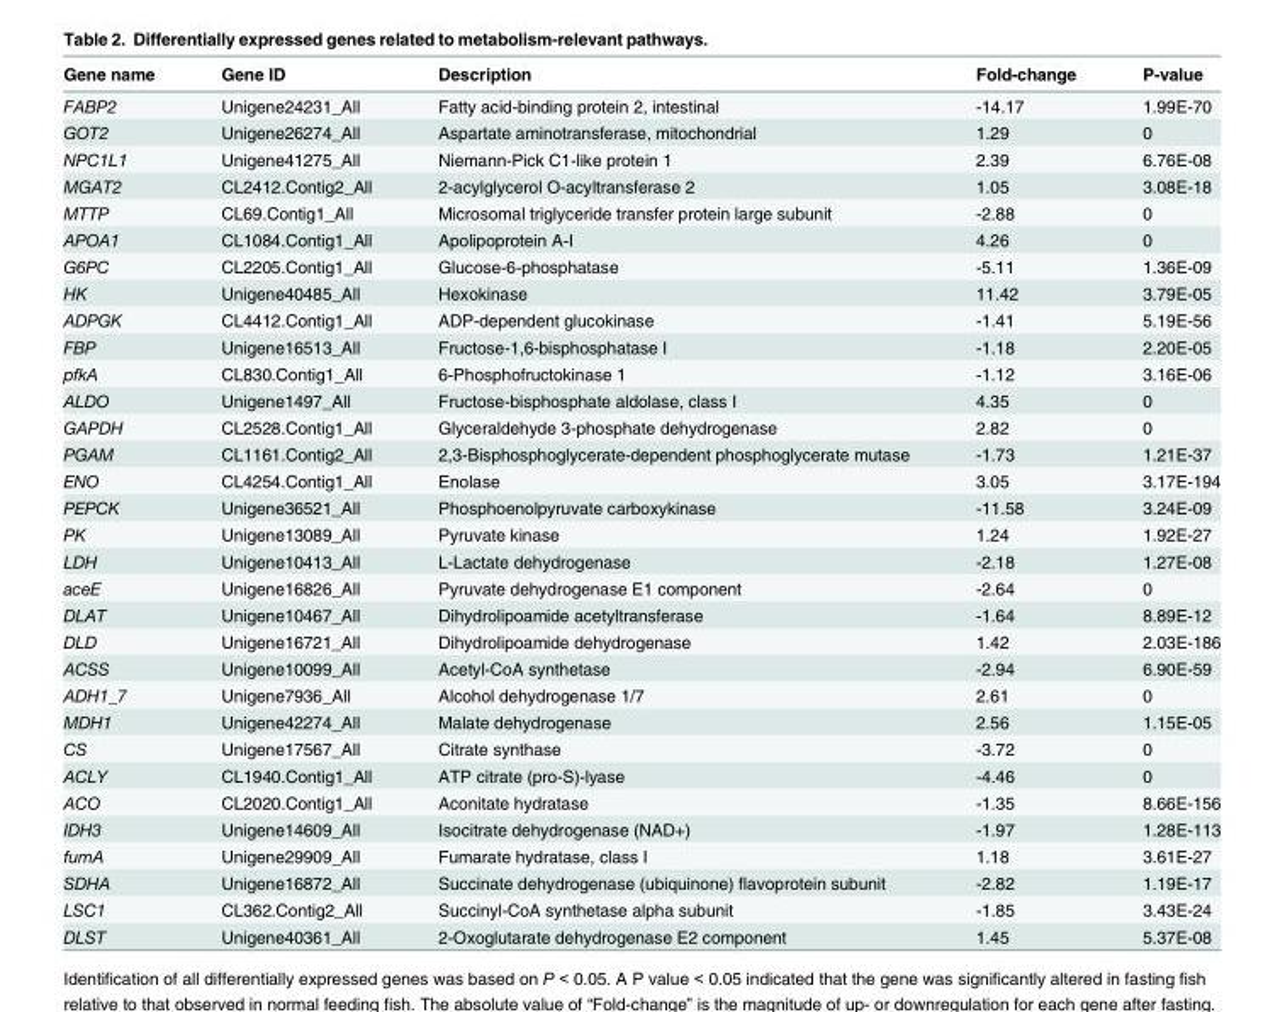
<table><thead><tr><td>Gene name</td><td>Gene ID</td><td>Description</td><td>Fold-change</td><td>P-value</td></tr></thead><tbody><tr><td>FABP2</td><td>Unigene24231_All</td><td>Fatty acid-binding protein 2, intestinal</td><td>-14.17</td><td>1.99E-70</td></tr><tr><td>GOT2</td><td>Unigene26274_All</td><td>Aspartate aminotransferase, mitochondrial</td><td>1.29</td><td>0</td></tr><tr><td>NPC1L1</td><td>Unigene41275_All</td><td>Niemann-Pick C1-like protein 1</td><td>2.39</td><td>6.76E-08</td></tr><tr><td>MGAT2</td><td>CL2412.Contig2_All</td><td>2-acylglycerol O-acyltransferase 2</td><td>1.05</td><td>3.08E-18</td></tr><tr><td>MTTP</td><td>CL69.Contig1_All</td><td>Microsomal triglyceride transfer protein large subunit</td><td>-2.88</td><td>0</td></tr><tr><td>APOA1</td><td>CL1084.Contig1_All</td><td>Apolipoprotein A-I</td><td>4.26</td><td>0</td></tr><tr><td>G6PC</td><td>CL2205.Contig1_All</td><td>Glucose-6-phosphatase</td><td>-5.11</td><td>1.36E-09</td></tr><tr><td>HK</td><td>Unigene40485_All</td><td>Hexokinase</td><td>11.42</td><td>3.79E-05</td></tr><tr><td>ADPGK</td><td>CL4412.Contig1_All</td><td>ADP-dependent glucokinase</td><td>-1.41</td><td>5.19E-56</td></tr><tr><td>FBP</td><td>Unigene16513_All</td><td>Fructose-1,6-bisphosphatase I</td><td>-1.18</td><td>2.20E-05</td></tr><tr><td>pfkA</td><td>CL830.Contig1_All</td><td>6-Phosphofructokinase 1</td><td>-1.12</td><td>3.16E-06</td></tr><tr><td>ALDO</td><td>Unigene1497_All</td><td>Fructose-bisphosphate aldolase, class I</td><td>4.35</td><td>0</td></tr><tr><td>GAPDH</td><td>CL2528.Contig1_All</td><td>Glyceraldehyde 3-phosphate dehydrogenase</td><td>2.82</td><td>0</td></tr><tr><td>PGAM</td><td>CL1161.Contig2_All</td><td>2,3-Bisphosphoglycerate-dependent phosphoglycerate mutase</td><td>-1.73</td><td>1.21E-37</td></tr><tr><td>ENO</td><td>CL4254.Contig1_All</td><td>Enolase</td><td>3.05</td><td>3.17E-194</td></tr><tr><td>PEPCK</td><td>Unigene36521_All</td><td>Phosphoenolpyruvate carboxykinase</td><td>-11.58</td><td>3.24E-09</td></tr><tr><td>PK</td><td>Unigene13089_All</td><td>Pyruvate kinase</td><td>1.24</td><td>1.92E-27</td></tr><tr><td>LDH</td><td>Unigene10413_All</td><td>L-Lactate dehydrogenase</td><td>-2.18</td><td>1.27E-08</td></tr><tr><td>aceE</td><td>Unigene16826_All</td><td>Pyruvate dehydrogenase E1 component</td><td>-2.64</td><td>0</td></tr><tr><td>DLAT</td><td>Unigene10467_All</td><td>Dihydrolipoamide acetyltransferase</td><td>-1.64</td><td>8.89E-12</td></tr><tr><td>DLD</td><td>Unigene16721_All</td><td>Dihydrolipoamide dehydrogenase</td><td>1.42</td><td>2.03E-186</td></tr><tr><td>ACSS</td><td>Unigene10099_All</td><td>Acetyl-CoA synthetase</td><td>-2.94</td><td>6.90E-59</td></tr><tr><td>ADH1_7</td><td>Unigene7936_All</td><td>Alcohol dehydrogenase 1/7</td><td>2.61</td><td>0</td></tr><tr><td>MDH1</td><td>Unigene42274_All</td><td>Malate dehydrogenase</td><td>2.56</td><td>1.15E-05</td></tr><tr><td>CS</td><td>Unigene17567_All</td><td>Citrate synthase</td><td>-3.72</td><td>0</td></tr><tr><td>ACLY</td><td>CL1940.Contig1_All</td><td>ATP citrate (pro-S)-lyase</td><td>-4.46</td><td>0</td></tr><tr><td>ACO</td><td>CL2020.Contig1_All</td><td>Aconitate hydratase</td><td>-1.35</td><td>8.66E-156</td></tr><tr><td>IDH3</td><td>Unigene14609_All</td><td>Isocitrate dehydrogenase (NAD+)</td><td>-1.97</td><td>1.28E-113</td></tr><tr><td>fumA</td><td>Unigene29909_All</td><td>Fumarate hydratase, class I</td><td>1.18</td><td>3.61E-27</td></tr><tr><td>SDHA</td><td>Unigene16872_All</td><td>Succinate dehydrogenase (ubiquinone) flavoprotein subunit</td><td>-2.82</td><td>1.19E-17</td></tr><tr><td>LSC1</td><td>CL362.Contig2_All</td><td>Succinyl-CoA synthetase alpha subunit</td><td>-1.85</td><td>3.43E-24</td></tr><tr><td>DLST</td><td>Unigene40361_All</td><td>2-Oxoglutarate dehydrogenase E2 component</td><td>1.45</td><td>5.37E-08</td></tr></tbody></table>